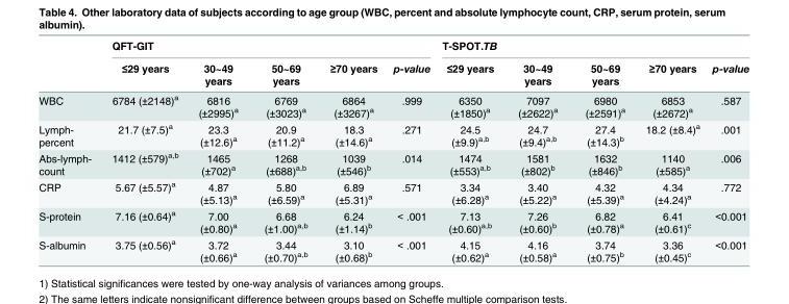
<table><thead><tr><td rowspan="2"></td><td colspan="5">QFT-GIT</td><td colspan="5">T-SPOT.TB</td></tr><tr><td>≤29 years</td><td>30~49 years</td><td>50~69 years</td><td>≥70 years</td><td>p-value</td><td>≤29 years</td><td>30~49 years</td><td>50~69 years</td><td>≥70 years</td><td>p-value</td></tr></thead><tbody><tr><td>WBC</td><td>6784 (±2148)<sup>a</sup></td><td>6816 (±2995)<sup>a</sup></td><td>6769 (±3023)<sup>a</sup></td><td>6864 (±3267)<sup>a</sup></td><td>.999</td><td>6350 (±1850)<sup>a</sup></td><td>7097 (±2622)<sup>a</sup></td><td>6980 (±2591)<sup>a</sup></td><td>6853 (±2672)<sup>a</sup></td><td>.587</td></tr><tr><td>Lymph- percent</td><td>21.7 (±7.5)<sup>a</sup></td><td>23.3 (±12.6)<sup>a</sup></td><td>20.9 (±11.2)<sup>a</sup></td><td>18.3 (±14.6)<sup>a</sup></td><td>.271</td><td>24.5 (±9.9)<sup>a,b</sup></td><td>24.7 (±9.4)<sup>a,b</sup></td><td>27.4 (±14.3)<sup>b</sup></td><td>18.2 (±8.4)<sup>a</sup></td><td>.001</td></tr><tr><td>Abs-lymph- count</td><td>1412 (±579)<sup>a,b</sup></td><td>1465 (±702)<sup>a</sup></td><td>1268 (±688)<sup>a,b</sup></td><td>1039 (±546)<sup>b</sup></td><td>.014</td><td>1474 (±553)<sup>a,b</sup></td><td>1581 (±802)<sup>b</sup></td><td>1632 (±846)<sup>b</sup></td><td>1140 (±585)<sup>a</sup></td><td>.006</td></tr><tr><td>CRP</td><td>5.67 (±5.57)<sup>a</sup></td><td>4.87 (±5.13)<sup>a</sup></td><td>5.80 (±6.59)<sup>a</sup></td><td>6.89 (±5.31)<sup>a</sup></td><td>.571</td><td>3.34 (±6.28)<sup>a</sup></td><td>3.40 (±5.22)<sup>a</sup></td><td>4.32 (±5.39)<sup>a</sup></td><td>4.34 (±4.24)<sup>a</sup></td><td>.772</td></tr><tr><td>S-protein</td><td>7.16 (±0.64)<sup>a</sup></td><td>7.00 (±0.80)<sup>a</sup></td><td>6.68 (±1.00)<sup>a,b</sup></td><td>6.24 (±1.14)<sup>b</sup></td><td>&lt; .001</td><td>7.13 (±0.60)<sup>a,b</sup></td><td>7.26 (±0.60)<sup>b</sup></td><td>6.82 (±0.78)<sup>a</sup></td><td>6.41 (±0.61)<sup>c</sup></td><td>&lt;0.001</td></tr><tr><td>S-albumin</td><td>3.75 (±0.56)<sup>a</sup></td><td>3.72 (±0.66)<sup>a</sup></td><td>3.44 (±0.70)<sup>a,b</sup></td><td>3.10 (±0.68)<sup>b</sup></td><td>&lt; .001</td><td>4.15 (±0.62)<sup>a</sup></td><td>4.16 (±0.58)<sup>a</sup></td><td>3.74 (±0.75)<sup>b</sup></td><td>3.36 (±0.45)<sup>c</sup></td><td>&lt;0.001</td></tr></tbody></table>